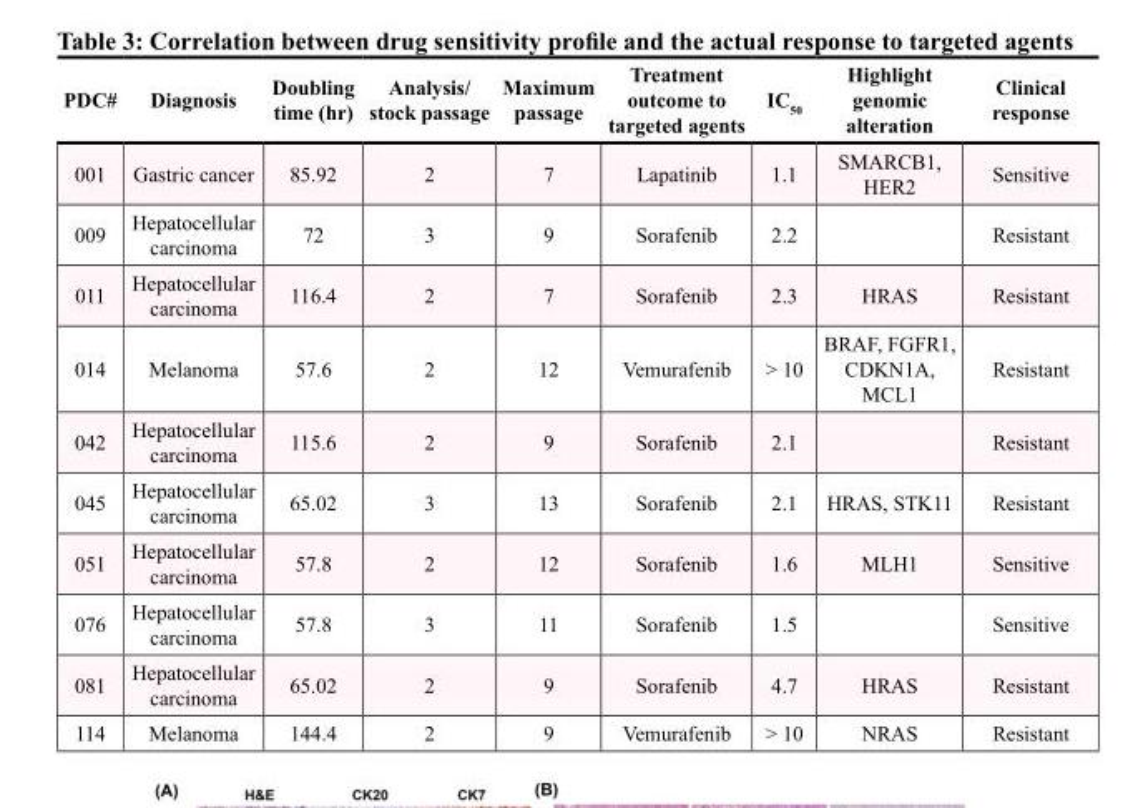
<table><thead><tr><td>PDC#</td><td>Diagnosis</td><td>Doubling time (hr)</td><td>Analysis/ stock passage</td><td>Maximum passage</td><td>Treatment outcome to targeted agents</td><td>IC<sub>50</sub></td><td>Highlight genomic alteration</td><td>Clinical response</td></tr></thead><tbody><tr><td>001</td><td>Gastric cancer</td><td>85.92</td><td>2</td><td>7</td><td>Lapatinib</td><td>1.1</td><td>SMARCB1, HER2</td><td>Sensitive</td></tr><tr><td>009</td><td>Hepatocellular carcinoma</td><td>72</td><td>3</td><td>9</td><td>Sorafenib</td><td>2.2</td><td></td><td>Resistant</td></tr><tr><td>011</td><td>Hepatocellular carcinoma</td><td>116.4</td><td>2</td><td>7</td><td>Sorafenib</td><td>2.3</td><td>HRAS</td><td>Resistant</td></tr><tr><td>014</td><td>Melanoma</td><td>57.6</td><td>2</td><td>12</td><td>Vemurafenib</td><td>&gt; 10</td><td>BRAF, FGFR1, CDKN1A, MCL1</td><td>Resistant</td></tr><tr><td>042</td><td>Hepatocellular carcinoma</td><td>115.6</td><td>2</td><td>9</td><td>Sorafenib</td><td>2.1</td><td></td><td>Resistant</td></tr><tr><td>045</td><td>Hepatocellular carcinoma</td><td>65.02</td><td>3</td><td>13</td><td>Sorafenib</td><td>2.1</td><td>HRAS, STK11</td><td>Resistant</td></tr><tr><td>051</td><td>Hepatocellular carcinoma</td><td>57.8</td><td>2</td><td>12</td><td>Sorafenib</td><td>1.6</td><td>MLH1</td><td>Sensitive</td></tr><tr><td>076</td><td>Hepatocellular carcinoma</td><td>57.8</td><td>3</td><td>11</td><td>Sorafenib</td><td>1.5</td><td></td><td>Sensitive</td></tr><tr><td>081</td><td>Hepatocellular carcinoma</td><td>65.02</td><td>2</td><td>9</td><td>Sorafenib</td><td>4.7</td><td>HRAS</td><td>Resistant</td></tr><tr><td>114</td><td>Melanoma</td><td>144.4</td><td>2</td><td>9</td><td>Vemurafenib</td><td>&gt; 10</td><td>NRAS</td><td>Resistant</td></tr></tbody></table>